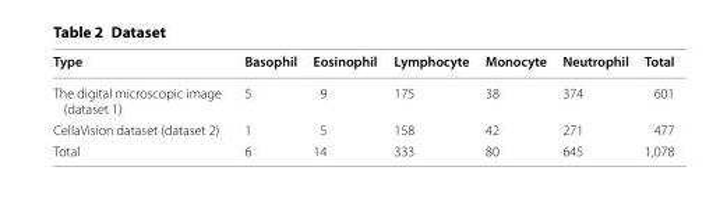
<table><thead><tr><td>Type</td><td>Basophil</td><td>Eosinophil</td><td>Lymphocyte</td><td>Monocyte</td><td>Neutrophil</td><td>Total</td></tr></thead><tbody><tr><td>The digital microscopic image (dataset 1)</td><td>5</td><td>9</td><td>175</td><td>38</td><td>374</td><td>601</td></tr><tr><td>CellaVision dataset (dataset 2)</td><td>1</td><td>5</td><td>158</td><td>42</td><td>271</td><td>477</td></tr><tr><td>Total</td><td>6</td><td>14</td><td>333</td><td>80</td><td>645</td><td>1,078</td></tr></tbody></table>